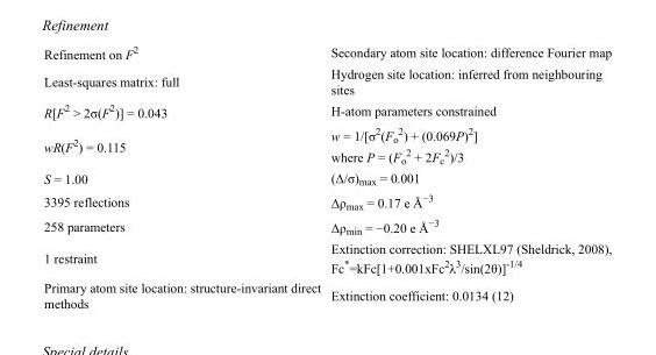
<table><tbody><tr><td>Refinement on F<sup>2</sup></td><td>Secondary atom site location: difference Fourier map</td></tr><tr><td>Least-squares matrix: full</td><td>Hydrogen site location: inferred from neighbouring sites</td></tr><tr><td>R[F<sup>2</sup> &gt; 2σ(F<sup>2</sup>)] = 0.043</td><td>H-atom parameters constrained</td></tr><tr><td>wR(F<sup>2</sup>) = 0.115</td><td>w = 1/[σ<sup>2</sup>(F<sub>o</sub> <sup>2</sup>) + (0.069P)<sup>2</sup>] where P = (F<sub>o</sub> <sup>2</sup> + 2F<sub>c</sub> <sup>2</sup>)/3</td></tr><tr><td>S = 1.00</td><td>(Δ/σ)<sub>max</sub> = 0.001</td></tr><tr><td>3395 reflections</td><td>Δρ<sub>max</sub> = 0.17 e Å<sup>−3</sup></td></tr><tr><td>258 parameters</td><td>Δρ<sub>min</sub> = −0.20 e Å<sup>−3</sup></td></tr><tr><td>1 restraint</td><td>Extinction correction: SHELXL97 (Sheldrick, 2008), Fc*=kFc[1+0.001xFc<sup>2</sup>λ<sup>3</sup>/sin(2θ)]<sup>-1/4</sup></td></tr><tr><td>Primary atom site location: structure-invariant direct methods</td><td>Extinction coefficient: 0.0134 (12)</td></tr></tbody></table>